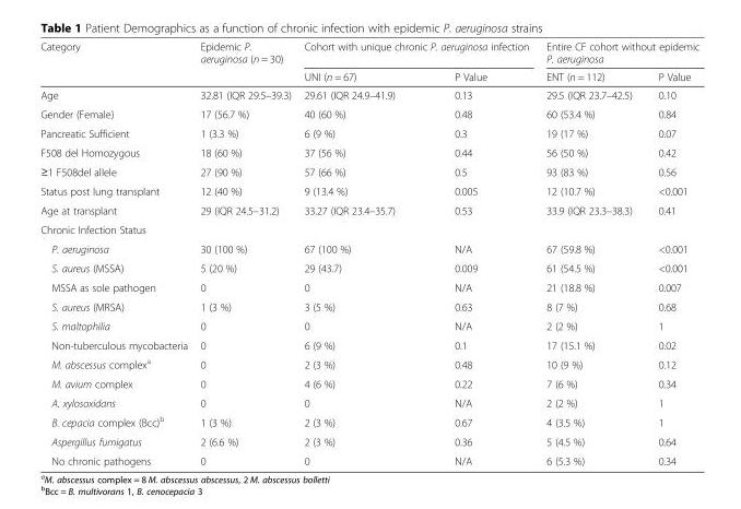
<table><thead><tr><td rowspan="2">Category</td><td rowspan="2">Epidemic P. aeruginosa (n = 30)</td><td colspan="2">Cohort with unique chronic P. aeruginosa infection</td><td colspan="2">Entire CF cohort without epidemic P. aeruginosa</td></tr><tr><td>UNI (n = 67)</td><td>P Value</td><td>ENT (n = 112)</td><td>P Value</td></tr></thead><tbody><tr><td>Age</td><td>32.81 (IQR 29.5–39.3)</td><td>29.61 (IQR 24.9–41.9)</td><td>0.13</td><td>29.5 (IQR 23.7–42.5)</td><td>0.10</td></tr><tr><td>Gender (Female)</td><td>17 (56.7 %)</td><td>40 (60 %)</td><td>0.48</td><td>60 (53.4 %)</td><td>0.84</td></tr><tr><td>Pancreatic Sufficient</td><td>1 (3.3 %)</td><td>6 (9 %)</td><td>0.3</td><td>19 (17 %)</td><td>0.07</td></tr><tr><td>F508 del Homozygous</td><td>18 (60 %)</td><td>37 (56 %)</td><td>0.44</td><td>56 (50 %)</td><td>0.42</td></tr><tr><td>≥1 F508del allele</td><td>27 (90 %)</td><td>57 (66 %)</td><td>0.5</td><td>93 (83 %)</td><td>0.56</td></tr><tr><td>Status post lung transplant</td><td>12 (40 %)</td><td>9 (13.4 %)</td><td>0.005</td><td>12 (10.7 %)</td><td>&lt;0.001</td></tr><tr><td>Age at transplant</td><td>29 (IQR 24.5–31.2)</td><td>33.27 (IQR 23.4–35.7)</td><td>0.53</td><td>33.9 (IQR 23.3–38.3)</td><td>0.41</td></tr><tr><td colspan="6">Chronic Infection Status</td></tr><tr><td>P. aeruginosa</td><td>30 (100 %)</td><td>67 (100 %)</td><td>N/A</td><td>67 (59.8 %)</td><td>&lt;0.001</td></tr><tr><td>S. aureus (MSSA)</td><td>5 (20 %)</td><td>29 (43.7)</td><td>0.009</td><td>61 (54.5 %)</td><td>&lt;0.001</td></tr><tr><td>MSSA as sole pathogen</td><td>0</td><td>0</td><td>N/A</td><td>21 (18.8 %)</td><td>0.007</td></tr><tr><td>S. aureus (MRSA)</td><td>1 (3 %)</td><td>3 (5 %)</td><td>0.63</td><td>8 (7 %)</td><td>0.68</td></tr><tr><td>S. maltophilia</td><td>0</td><td>0</td><td>N/A</td><td>2 (2 %)</td><td>1</td></tr><tr><td>Non-tuberculous mycobacteria</td><td>0</td><td>6 (9 %)</td><td>0.1</td><td>17 (15.1 %)</td><td>0.02</td></tr><tr><td>M. abscessus complex<sup>a</sup></td><td>0</td><td>2 (3 %)</td><td>0.48</td><td>10 (9 %)</td><td>0.12</td></tr><tr><td>M. avium complex</td><td>0</td><td>4 (6 %)</td><td>0.22</td><td>7 (6 %)</td><td>0.34</td></tr><tr><td>A. xylosoxidans</td><td>0</td><td>0</td><td>N/A</td><td>2 (2 %)</td><td>1</td></tr><tr><td>B. cepacia complex (Bcc)<sup>b</sup></td><td>1 (3 %)</td><td>2 (3 %)</td><td>0.67</td><td>4 (3.5 %)</td><td>1</td></tr><tr><td>Aspergillus fumigatus</td><td>2 (6.6 %)</td><td>2 (3 %)</td><td>0.36</td><td>5 (4.5 %)</td><td>0.64</td></tr><tr><td>No chronic pathogens</td><td>0</td><td>0</td><td>N/A</td><td>6 (5.3 %)</td><td>0.34</td></tr></tbody></table>